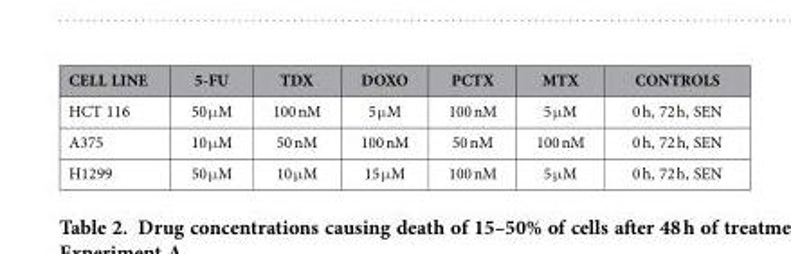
<table><thead><tr><td>CELL LINE</td><td>5-FU</td><td>TDX</td><td>DOXO</td><td>PCTX</td><td>MTX</td><td>CONTROLS</td></tr></thead><tbody><tr><td>HCT 116</td><td>50 μ M</td><td>100 nM</td><td>5 μ M</td><td>100 nM</td><td>5 μ M</td><td>0 h, 72 h, SEN</td></tr><tr><td>A375</td><td>10 μ M</td><td>50 nM</td><td>100 nM</td><td>50 nM</td><td>100 nM</td><td>0 h, 72 h, SEN</td></tr><tr><td>H1299</td><td>50 μ M</td><td>10 μ M</td><td>15 μ M</td><td>100 nM</td><td>5 μ M</td><td>0 h, 72 h, SEN</td></tr></tbody></table>